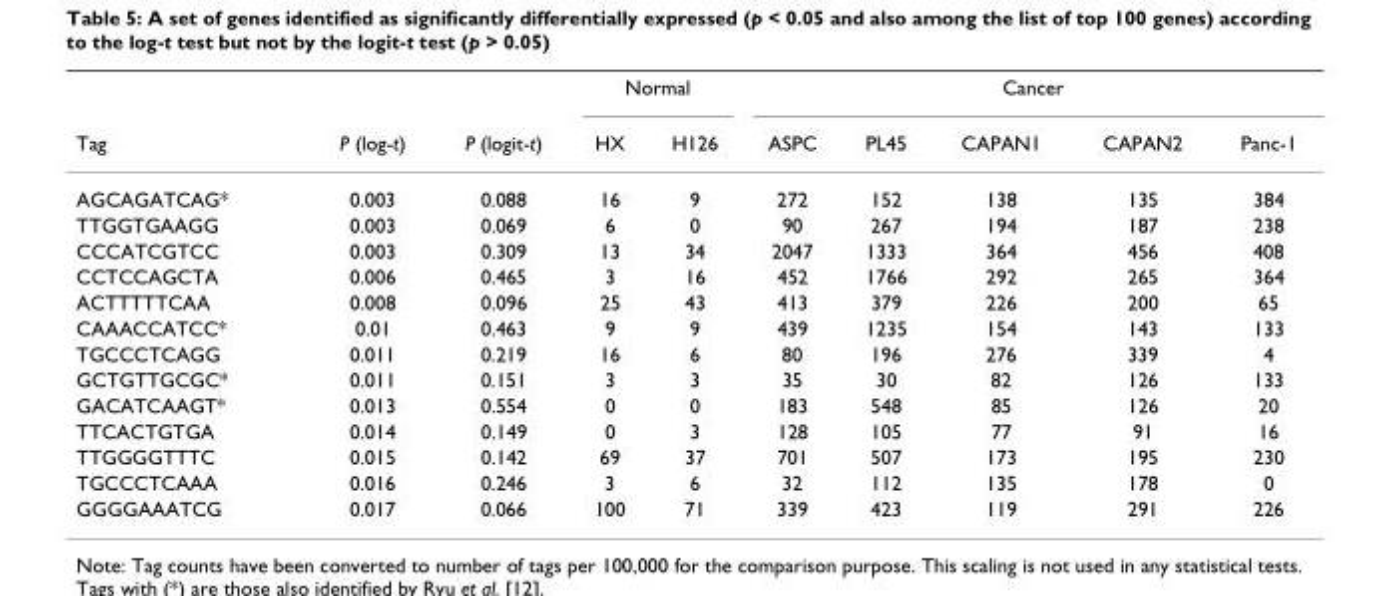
<table><thead><tr><td rowspan="2">Tag</td><td rowspan="2">P (log-t)</td><td rowspan="2">P (logit-t)</td><td colspan="2">Normal</td><td colspan="5">Cancer</td></tr><tr><td>HX</td><td>H126</td><td>ASPC</td><td>PL45</td><td>CAPAN1</td><td>CAPAN2</td><td>Panc-1</td></tr></thead><tbody><tr><td>AGCAGATCAG*</td><td>0.003</td><td>0.088</td><td>16</td><td>9</td><td>272</td><td>152</td><td>138</td><td>135</td><td>384</td></tr><tr><td>TTGGTGAAGG</td><td>0.003</td><td>0.069</td><td>6</td><td>0</td><td>90</td><td>267</td><td>194</td><td>187</td><td>238</td></tr><tr><td>CCCATCGTCC</td><td>0.003</td><td>0.309</td><td>13</td><td>34</td><td>2047</td><td>1333</td><td>364</td><td>456</td><td>408</td></tr><tr><td>CCTCCAGCTA</td><td>0.006</td><td>0.465</td><td>3</td><td>16</td><td>452</td><td>1766</td><td>292</td><td>265</td><td>364</td></tr><tr><td>ACTTTTTCAA</td><td>0.008</td><td>0.096</td><td>25</td><td>43</td><td>413</td><td>379</td><td>226</td><td>200</td><td>65</td></tr><tr><td>CAAACCATCC*</td><td>0.01</td><td>0.463</td><td>9</td><td>9</td><td>439</td><td>1235</td><td>154</td><td>143</td><td>133</td></tr><tr><td>TGCCCTCAGG</td><td>0.011</td><td>0.219</td><td>16</td><td>6</td><td>80</td><td>196</td><td>276</td><td>339</td><td>4</td></tr><tr><td>GCTGTTGCGC*</td><td>0.011</td><td>0.151</td><td>3</td><td>3</td><td>35</td><td>30</td><td>82</td><td>126</td><td>133</td></tr><tr><td>GACATCAAGT*</td><td>0.013</td><td>0.554</td><td>0</td><td>0</td><td>183</td><td>548</td><td>85</td><td>126</td><td>20</td></tr><tr><td>TTCACTGTGA</td><td>0.014</td><td>0.149</td><td>0</td><td>3</td><td>128</td><td>105</td><td>77</td><td>91</td><td>16</td></tr><tr><td>TTGGGGTTTC</td><td>0.015</td><td>0.142</td><td>69</td><td>37</td><td>701</td><td>507</td><td>173</td><td>195</td><td>230</td></tr><tr><td>TGCCCTCAAA</td><td>0.016</td><td>0.246</td><td>3</td><td>6</td><td>32</td><td>112</td><td>135</td><td>178</td><td>0</td></tr><tr><td>GGGGAAATCG</td><td>0.017</td><td>0.066</td><td>100</td><td>71</td><td>339</td><td>423</td><td>119</td><td>291</td><td>226</td></tr></tbody></table>